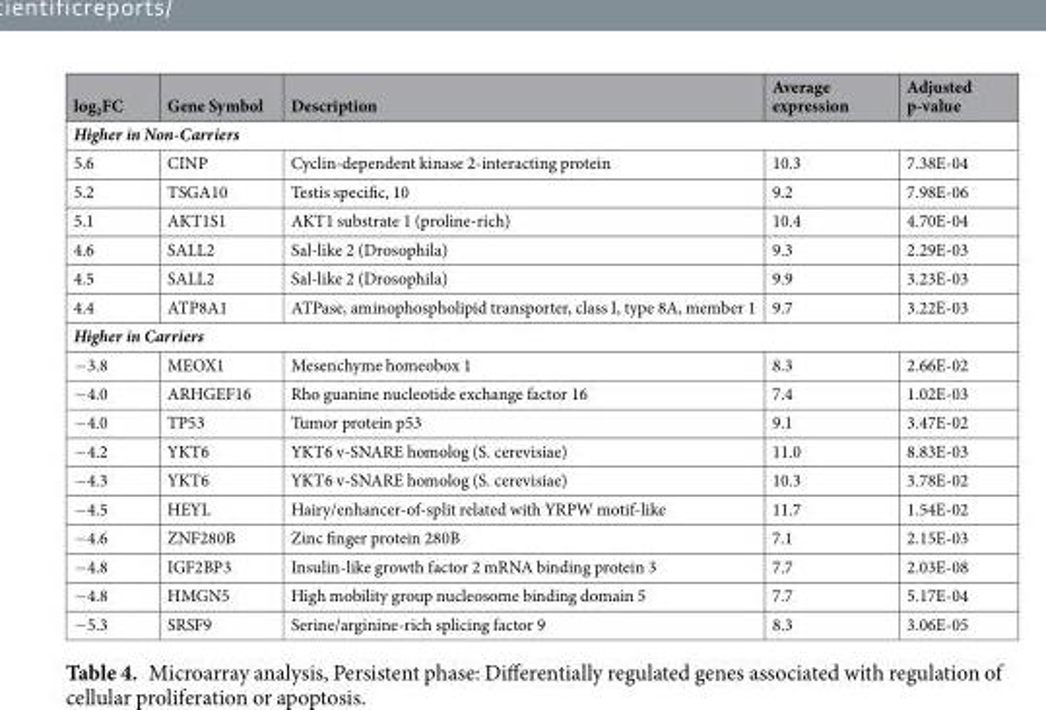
<table><thead><tr><td>log<sub>2</sub>FC</td><td>Gene Symbol</td><td>Description</td><td>Average expression</td><td>Adjusted p-value</td></tr></thead><tbody><tr><td colspan="5">Higher in Non-Carriers</td></tr><tr><td>5.6</td><td>CINP</td><td>Cyclin-dependent kinase 2-interacting protein</td><td>10.3</td><td>7.38E-04</td></tr><tr><td>5.2</td><td>TSGA10</td><td>Testis specific, 10</td><td>9.2</td><td>7.98E-06</td></tr><tr><td>5.1</td><td>AKT1S1</td><td>AKT1 substrate 1 (proline-rich)</td><td>10.4</td><td>4.70E-04</td></tr><tr><td>4.6</td><td>SALL2</td><td>Sal-like 2 (Drosophila)</td><td>9.3</td><td>2.29E-03</td></tr><tr><td>4.5</td><td>SALL2</td><td>Sal-like 2 (Drosophila)</td><td>9.9</td><td>3.23E-03</td></tr><tr><td>4.4</td><td>ATP8A1</td><td>ATPase, aminophospholipid transporter, class I, type 8A, member 1</td><td>9.7</td><td>3.22E-03</td></tr><tr><td colspan="5">Higher in Carriers</td></tr><tr><td>−3.8</td><td>MEOX1</td><td>Mesenchyme homeobox 1</td><td>8.3</td><td>2.66E-02</td></tr><tr><td>−4.0</td><td>ARHGEF16</td><td>Rho guanine nucleotide exchange factor 16</td><td>7.4</td><td>1.02E-03</td></tr><tr><td>−4.0</td><td>TP53</td><td>Tumor protein p53</td><td>9.1</td><td>3.47E-02</td></tr><tr><td>−4.2</td><td>YKT6</td><td>YKT6 v-SNARE homolog (S. cerevisiae)</td><td>11.0</td><td>8.83E-03</td></tr><tr><td>−4.3</td><td>YKT6</td><td>YKT6 v-SNARE homolog (S. cerevisiae)</td><td>10.3</td><td>3.78E-02</td></tr><tr><td>−4.5</td><td>HEYL</td><td>Hairy/enhancer-of-split related with YRPW motif-like</td><td>11.7</td><td>1.54E-02</td></tr><tr><td>−4.6</td><td>ZNF280B</td><td>Zinc finger protein 280B</td><td>7.1</td><td>2.15E-03</td></tr><tr><td>−4.8</td><td>IGF2BP3</td><td>Insulin-like growth factor 2 mRNA binding protein 3</td><td>7.7</td><td>2.03E-08</td></tr><tr><td>−4.8</td><td>HMGN5</td><td>High mobility group nucleosome binding domain 5</td><td>7.7</td><td>5.17E-04</td></tr><tr><td>−5.3</td><td>SRSF9</td><td>Serine/arginine-rich splicing factor 9</td><td>8.3</td><td>3.06E-05</td></tr></tbody></table>